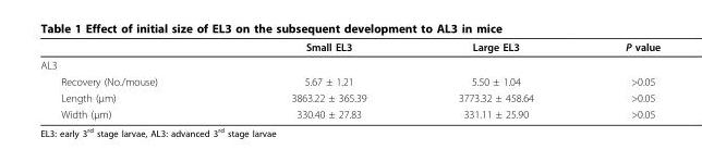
<table><thead><tr><td></td><td>Small EL3</td><td>Large EL3</td><td>P value</td></tr></thead><tbody><tr><td colspan="4">AL3</td></tr><tr><td>Recovery (No./mouse)</td><td>5.67 ± 1.21</td><td>5.50 ± 1.04</td><td>&gt;0.05</td></tr><tr><td>Length (μm)</td><td>3863.22 ± 365.39</td><td>3773.32 ± 458.64</td><td>&gt;0.05</td></tr><tr><td>Width (μm)</td><td>330.40 ± 27.83</td><td>331.11 ± 25.90</td><td>&gt;0.05</td></tr></tbody></table>